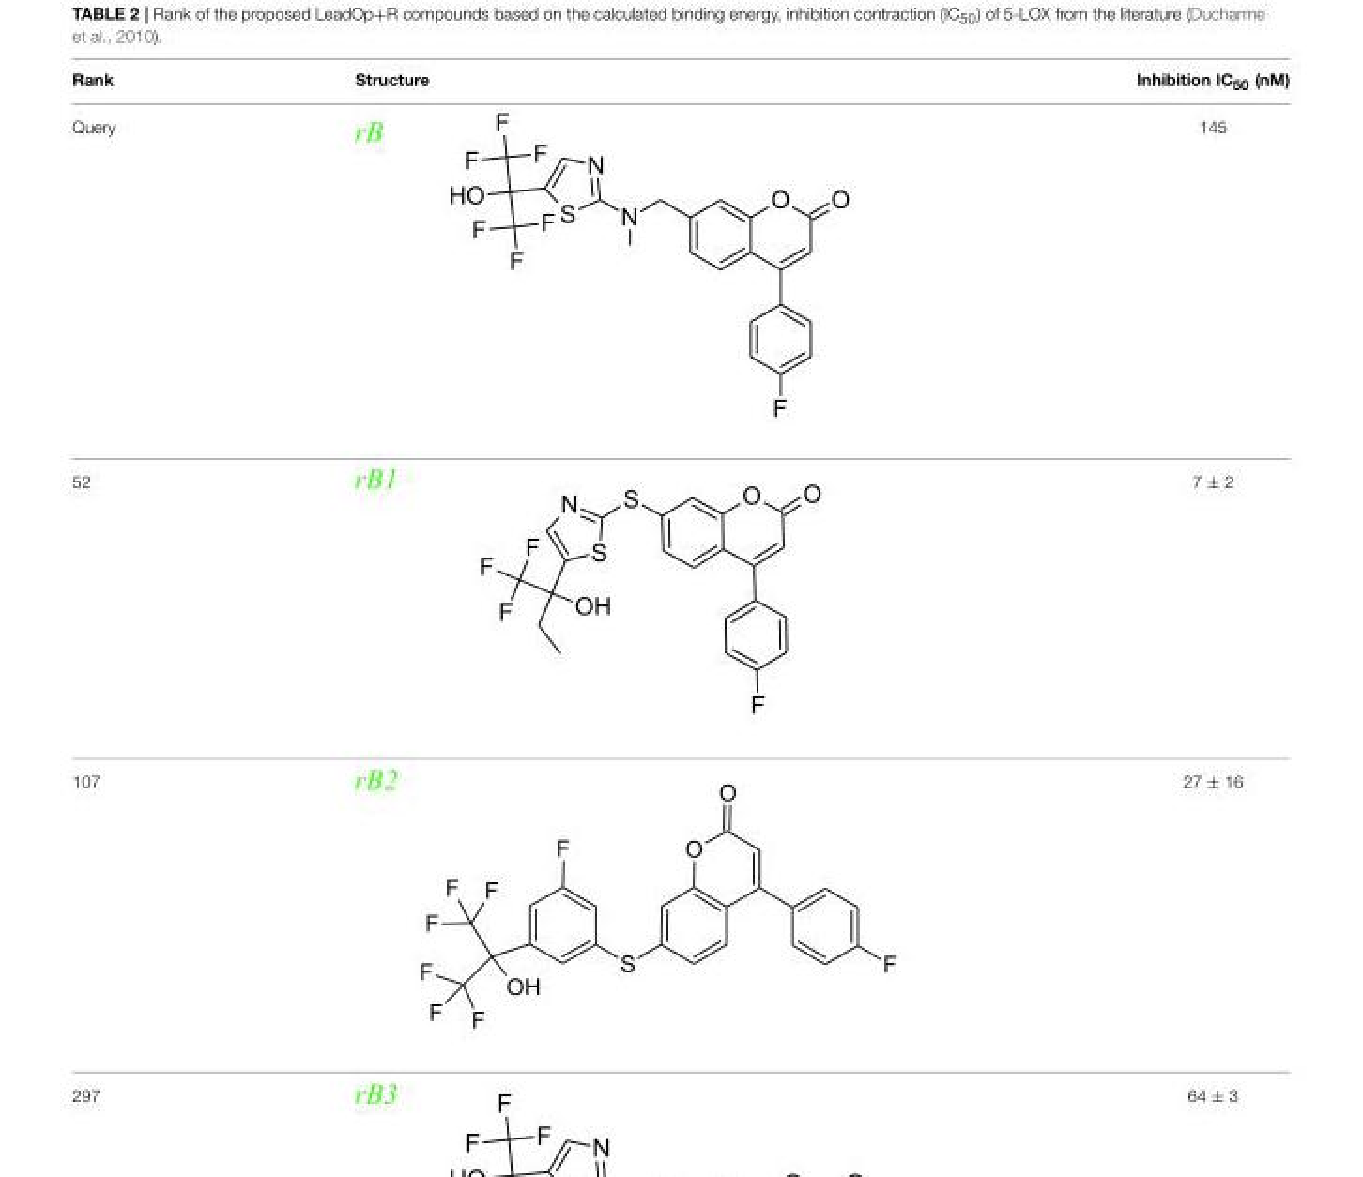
<table><thead><tr><td>Rank</td><td>Structure</td><td>Inhibition IC<sub>50</sub> (nM)</td></tr></thead><tbody><tr><td>Query</td><td></td><td>145</td></tr><tr><td>52</td><td></td><td>7 ± 2</td></tr><tr><td>107</td><td></td><td>27 ± 16</td></tr><tr><td>297</td><td></td><td>64 ± 3</td></tr></tbody></table>